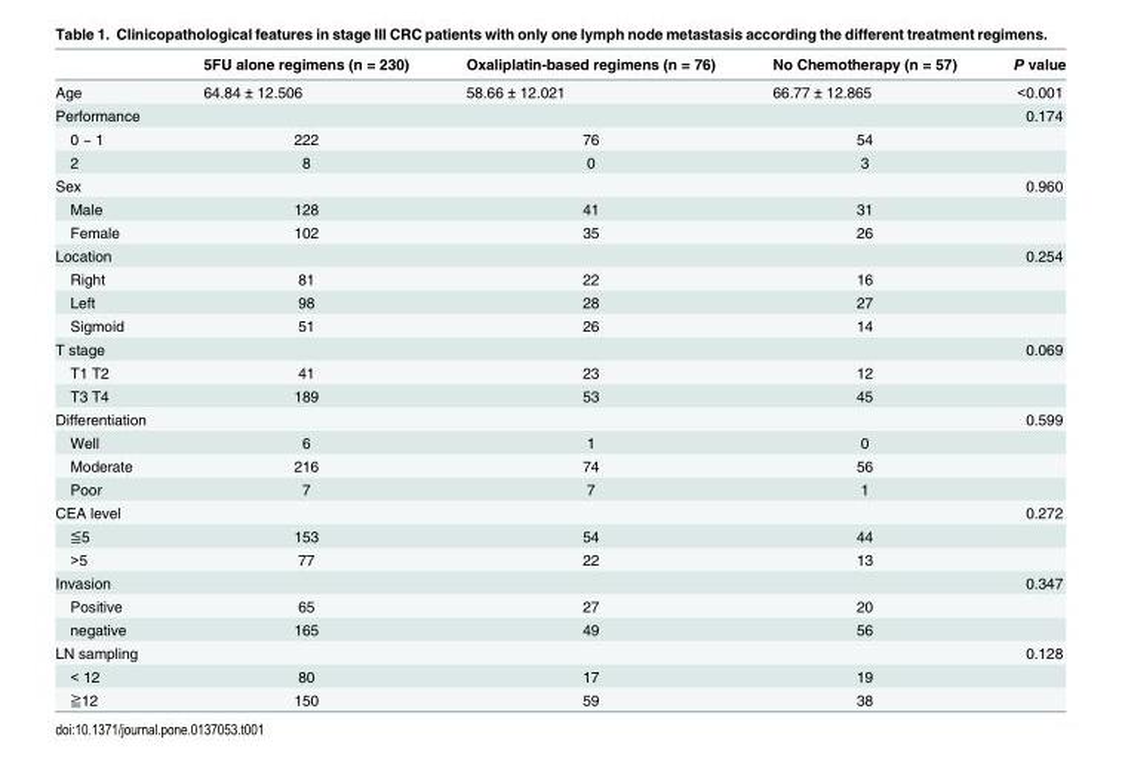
<table><thead><tr><td></td><td>5FU alone regimens (n = 230)</td><td>Oxaliplatin-based regimens (n = 76)</td><td>No Chemotherapy (n = 57)</td><td>P value</td></tr></thead><tbody><tr><td>Age</td><td>64.84 ± 12.506</td><td>58.66 ± 12.021</td><td>66.77 ± 12.865</td><td>&lt;0.001</td></tr><tr><td>Performance</td><td></td><td></td><td></td><td>0.174</td></tr><tr><td>0 ~ 1</td><td>222</td><td>76</td><td>54</td><td></td></tr><tr><td>2</td><td>8</td><td>0</td><td>3</td><td></td></tr><tr><td>Sex</td><td></td><td></td><td></td><td>0.960</td></tr><tr><td>Male</td><td>128</td><td>41</td><td>31</td><td></td></tr><tr><td>Female</td><td>102</td><td>35</td><td>26</td><td></td></tr><tr><td>Location</td><td></td><td></td><td></td><td>0.254</td></tr><tr><td>Right</td><td>81</td><td>22</td><td>16</td><td></td></tr><tr><td>Left</td><td>98</td><td>28</td><td>27</td><td></td></tr><tr><td>Sigmoid</td><td>51</td><td>26</td><td>14</td><td></td></tr><tr><td>T stage</td><td></td><td></td><td></td><td>0.069</td></tr><tr><td>T1 T2</td><td>41</td><td>23</td><td>12</td><td></td></tr><tr><td>T3 T4</td><td>189</td><td>53</td><td>45</td><td></td></tr><tr><td>Differentiation</td><td></td><td></td><td></td><td>0.599</td></tr><tr><td>Well</td><td>6</td><td>1</td><td>0</td><td></td></tr><tr><td>Moderate</td><td>216</td><td>74</td><td>56</td><td></td></tr><tr><td>Poor</td><td>7</td><td>7</td><td>1</td><td></td></tr><tr><td>CEA level</td><td></td><td></td><td></td><td>0.272</td></tr><tr><td>≦5</td><td>153</td><td>54</td><td>44</td><td></td></tr><tr><td>&gt;5</td><td>77</td><td>22</td><td>13</td><td></td></tr><tr><td>Invasion</td><td></td><td></td><td></td><td>0.347</td></tr><tr><td>Positive</td><td>65</td><td>27</td><td>20</td><td></td></tr><tr><td>negative</td><td>165</td><td>49</td><td>56</td><td></td></tr><tr><td>LN sampling</td><td></td><td></td><td></td><td>0.128</td></tr><tr><td>&lt; 12</td><td>80</td><td>17</td><td>19</td><td></td></tr><tr><td>≧12</td><td>150</td><td>59</td><td>38</td><td></td></tr></tbody></table>